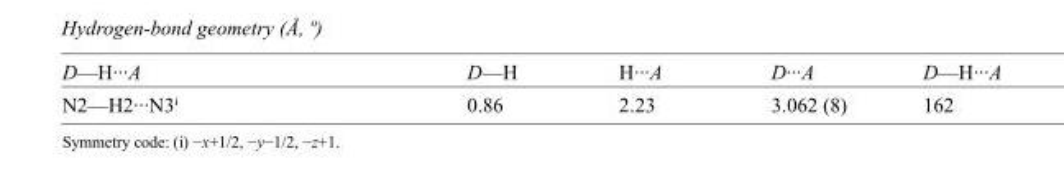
<table><tbody><tr><td>D—H···A</td><td>D—H</td><td>H···A</td><td>D···A</td><td>D—H···A</td></tr><tr><td>N2—H2···N3<sup>i</sup></td><td>0.86</td><td>2.23</td><td>3.062 (8)</td><td>162</td></tr></tbody></table>